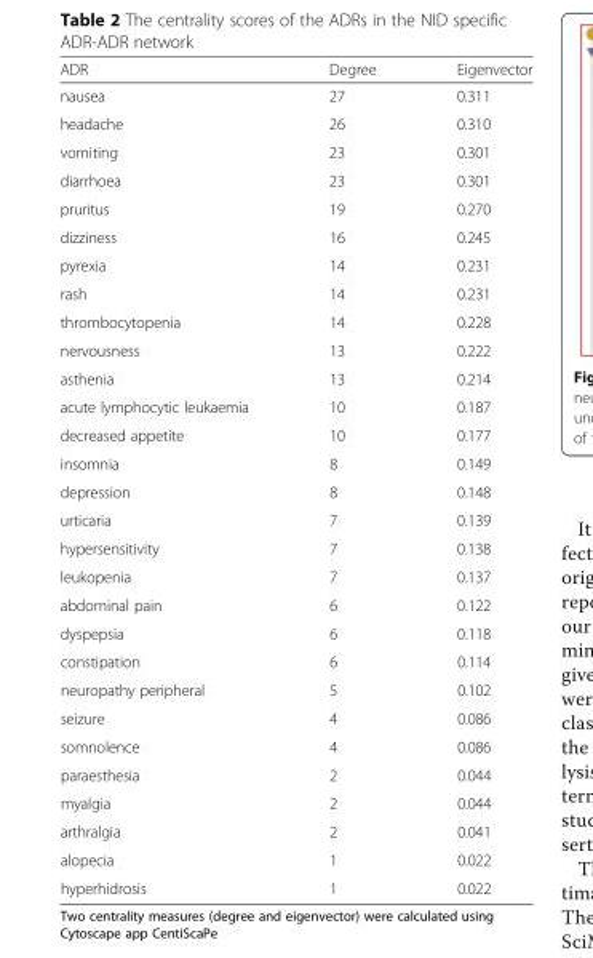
<table><thead><tr><td>ADR</td><td>Degree</td><td>Eigenvector</td></tr></thead><tbody><tr><td>nausea</td><td>27</td><td>0.311</td></tr><tr><td>headache</td><td>26</td><td>0.310</td></tr><tr><td>vomiting</td><td>23</td><td>0.301</td></tr><tr><td>diarrhoea</td><td>23</td><td>0.301</td></tr><tr><td>pruritus</td><td>19</td><td>0.270</td></tr><tr><td>dizziness</td><td>16</td><td>0.245</td></tr><tr><td>pyrexia</td><td>14</td><td>0.231</td></tr><tr><td>rash</td><td>14</td><td>0.231</td></tr><tr><td>thrombocytopenia</td><td>14</td><td>0.228</td></tr><tr><td>nervousness</td><td>13</td><td>0.222</td></tr><tr><td>asthenia</td><td>13</td><td>0.214</td></tr><tr><td>acute lymphocytic leukaemia</td><td>10</td><td>0.187</td></tr><tr><td>decreased appetite</td><td>10</td><td>0.177</td></tr><tr><td>insomnia</td><td>8</td><td>0.149</td></tr><tr><td>depression</td><td>8</td><td>0.148</td></tr><tr><td>urticaria</td><td>7</td><td>0.139</td></tr><tr><td>hypersensitivity</td><td>7</td><td>0.138</td></tr><tr><td>leukopenia</td><td>7</td><td>0.137</td></tr><tr><td>abdominal pain</td><td>6</td><td>0.122</td></tr><tr><td>dyspepsia</td><td>6</td><td>0.118</td></tr><tr><td>constipation</td><td>6</td><td>0.114</td></tr><tr><td>neuropathy peripheral</td><td>5</td><td>0.102</td></tr><tr><td>seizure</td><td>4</td><td>0.086</td></tr><tr><td>somnolence</td><td>4</td><td>0.086</td></tr><tr><td>paraesthesia</td><td>2</td><td>0.044</td></tr><tr><td>myalgia</td><td>2</td><td>0.044</td></tr><tr><td>arthralgia</td><td>2</td><td>0.041</td></tr><tr><td>alopecia</td><td>1</td><td>0.022</td></tr><tr><td>hyperhidrosis</td><td>1</td><td>0.022</td></tr></tbody></table>